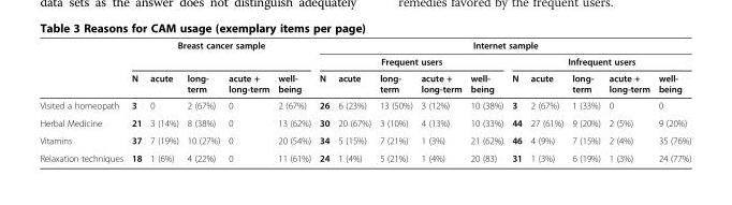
<table><thead><tr><td rowspan="3"></td><td rowspan="2" colspan="5">Breast cancer sample</td><td colspan="10">Internet sample</td></tr><tr><td colspan="5">Frequent users</td><td colspan="5">Infrequent users</td></tr><tr><td>N</td><td>acute</td><td>long- term</td><td>acute + long-term</td><td>well- being</td><td>N</td><td>acute</td><td>long- term</td><td>acute + long-term</td><td>well- being</td><td>N</td><td>acute</td><td>long- term</td><td>acute + long-term</td><td>well- being</td></tr></thead><tbody><tr><td>Visited a homeopath</td><td>3</td><td>0</td><td>2 (67%)</td><td>0</td><td>2 (67%)</td><td>26</td><td>6 (23%)</td><td>13 (50%)</td><td>3 (12%)</td><td>10 (38%)</td><td>3</td><td>2 (67%)</td><td>1 (33%)</td><td>0</td><td>0</td></tr><tr><td>Herbal Medicine</td><td>21</td><td>3 (14%)</td><td>8 (38%)</td><td>0</td><td>13 (62%)</td><td>30</td><td>20 (67%)</td><td>3 (10%)</td><td>4 (13%)</td><td>10 (33%)</td><td>44</td><td>27 (61%)</td><td>9 (20%)</td><td>2 (5%)</td><td>9 (20%)</td></tr><tr><td>Vitamins</td><td>37</td><td>7 (19%)</td><td>10 (27%)</td><td>0</td><td>20 (54%)</td><td>34</td><td>5 (15%)</td><td>7 (21%)</td><td>1 (3%)</td><td>21 (62%)</td><td>46</td><td>4 (9%)</td><td>7 (15%)</td><td>2 (4%)</td><td>35 (76%)</td></tr><tr><td>Relaxation techniques</td><td>18</td><td>1 (6%)</td><td>4 (22%)</td><td>0</td><td>11 (61%)</td><td>24</td><td>1 (4%)</td><td>5 (21%)</td><td>1 (4%)</td><td>20 (83)</td><td>31</td><td>1 (3%)</td><td>6 (19%)</td><td>1 (3%)</td><td>24 (77%)</td></tr></tbody></table>